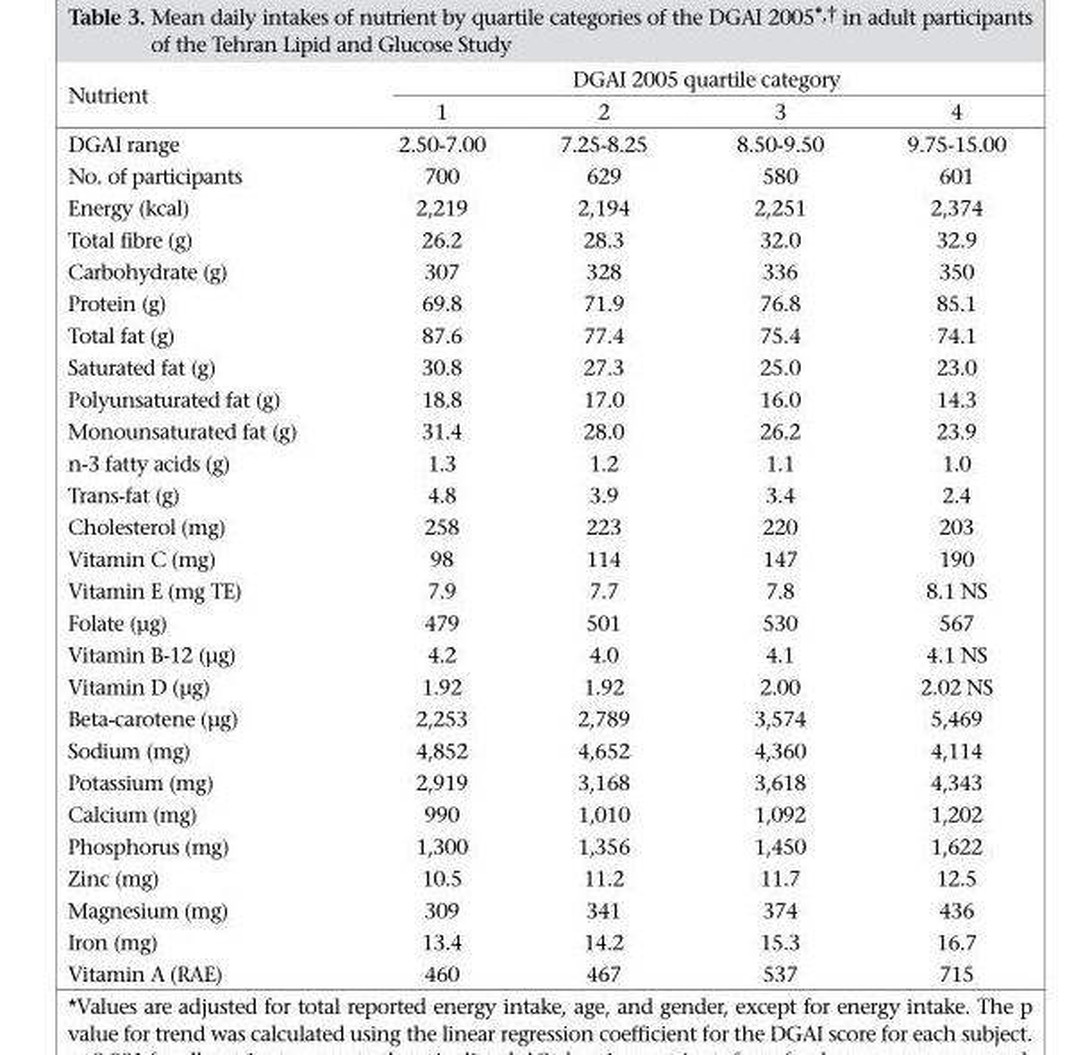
<table><thead><tr><td rowspan="2">Nutrient</td><td colspan="4">DGAI 2005 quartile category</td></tr><tr><td>1</td><td>2</td><td>3</td><td>4</td></tr></thead><tbody><tr><td>DGAI range</td><td>2.50-7.00</td><td>7.25-8.25</td><td>8.50-9.50</td><td>9.75-15.00</td></tr><tr><td>No. of participants</td><td>700</td><td>629</td><td>580</td><td>601</td></tr><tr><td>Energy (kcal)</td><td>2,219</td><td>2,194</td><td>2,251</td><td>2,374</td></tr><tr><td>Total fibre (g)</td><td>26.2</td><td>28.3</td><td>32.0</td><td>32.9</td></tr><tr><td>Carbohydrate (g)</td><td>307</td><td>328</td><td>336</td><td>350</td></tr><tr><td>Protein (g)</td><td>69.8</td><td>71.9</td><td>76.8</td><td>85.1</td></tr><tr><td>Total fat (g)</td><td>87.6</td><td>77.4</td><td>75.4</td><td>74.1</td></tr><tr><td>Saturated fat (g)</td><td>30.8</td><td>27.3</td><td>25.0</td><td>23.0</td></tr><tr><td>Polyunsaturated fat (g)</td><td>18.8</td><td>17.0</td><td>16.0</td><td>14.3</td></tr><tr><td>Monounsaturated fat (g)</td><td>31.4</td><td>28.0</td><td>26.2</td><td>23.9</td></tr><tr><td>n-3 fatty acids (g)</td><td>1.3</td><td>1.2</td><td>1.1</td><td>1.0</td></tr><tr><td>Trans-fat (g)</td><td>4.8</td><td>3.9</td><td>3.4</td><td>2.4</td></tr><tr><td>Cholesterol (mg)</td><td>258</td><td>223</td><td>220</td><td>203</td></tr><tr><td>Vitamin C (mg)</td><td>98</td><td>114</td><td>147</td><td>190</td></tr><tr><td>Vitamin E (mg TE)</td><td>7.9</td><td>7.7</td><td>7.8</td><td>8.1 NS</td></tr><tr><td>Folate (µg)</td><td>479</td><td>501</td><td>530</td><td>567</td></tr><tr><td>Vitamin B-12 (µg)</td><td>4.2</td><td>4.0</td><td>4.1</td><td>4.1 NS</td></tr><tr><td>Vitamin D (µg)</td><td>1.92</td><td>1.92</td><td>2.00</td><td>2.02 NS</td></tr><tr><td>Beta-carotene (µg)</td><td>2,253</td><td>2,789</td><td>3,574</td><td>5,469</td></tr><tr><td>Sodium (mg)</td><td>4,852</td><td>4,652</td><td>4,360</td><td>4,114</td></tr><tr><td>Potassium (mg)</td><td>2,919</td><td>3,168</td><td>3,618</td><td>4,343</td></tr><tr><td>Calcium (mg)</td><td>990</td><td>1,010</td><td>1,092</td><td>1,202</td></tr><tr><td>Phosphorus (mg)</td><td>1,300</td><td>1,356</td><td>1,450</td><td>1,622</td></tr><tr><td>Zinc (mg)</td><td>10.5</td><td>11.2</td><td>11.7</td><td>12.5</td></tr><tr><td>Magnesium (mg)</td><td>309</td><td>341</td><td>374</td><td>436</td></tr><tr><td>Iron (mg)</td><td>13.4</td><td>14.2</td><td>15.3</td><td>16.7</td></tr><tr><td>Vitamin A (RAE)</td><td>460</td><td>467</td><td>537</td><td>715</td></tr></tbody></table>